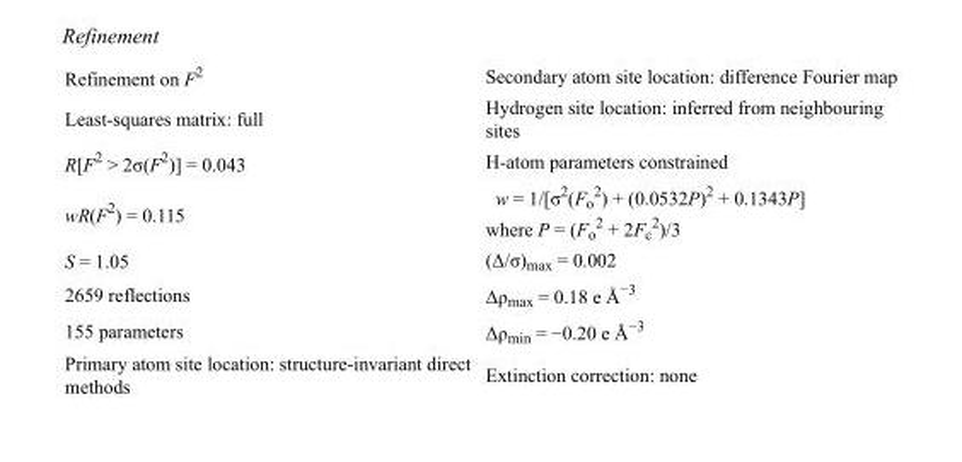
<table><tbody><tr><td>Refinement on F<sup>2</sup></td><td>Secondary atom site location: difference Fourier map</td></tr><tr><td>Least-squares matrix: full</td><td>Hydrogen site location: inferred from neighbouring sites</td></tr><tr><td>R[F<sup>2</sup> &gt; 2σ(F<sup>2</sup>)] = 0.043</td><td>H-atom parameters constrained</td></tr><tr><td>wR(F<sup>2</sup>) = 0.115</td><td>w = 1/[σ<sup>2</sup>(F<sub>o</sub> <sup>2</sup>) + (0.0532P)<sup>2</sup> + 0.1343P] where P = (F<sub>o</sub> <sup>2</sup> + 2F<sub>c</sub> <sup>2</sup>)/3</td></tr><tr><td>S = 1.05</td><td>(Δ/σ)<sub>max</sub> = 0.002</td></tr><tr><td>2659 reflections</td><td>Δρ<sub>max</sub> = 0.18 e Å<sup>−3</sup></td></tr><tr><td>155 parameters</td><td>Δρ<sub>min</sub> = −0.20 e Å<sup>−3</sup></td></tr><tr><td>Primary atom site location: structure-invariant direct methods</td><td>Extinction correction: none</td></tr></tbody></table>